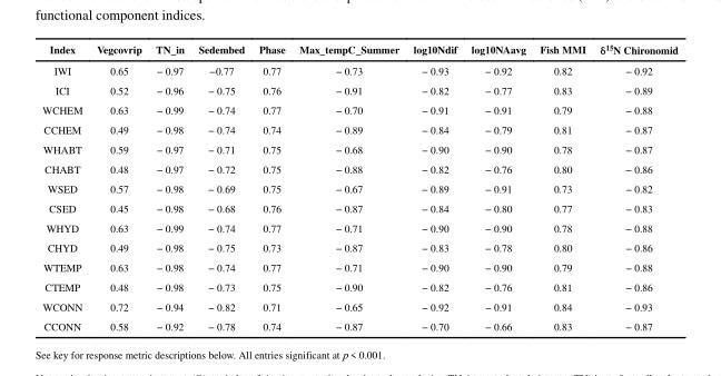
<table><thead><tr><td>Index</td><td>Vegcovrip</td><td>TN_in</td><td>Sedembed</td><td>Phase</td><td>Max_tempC_Summer</td><td>log10Ndif</td><td>log10NAavg</td><td>Fish MMI</td><td>δ<sup>15</sup>N Chironomid</td></tr></thead><tbody><tr><td>IWI</td><td>0.65</td><td>− 0.97</td><td>−0.77</td><td>0.77</td><td>− 0.73</td><td>− 0.93</td><td>− 0.92</td><td>0.82</td><td>− 0.92</td></tr><tr><td>ICI</td><td>0.52</td><td>− 0.96</td><td>− 0.75</td><td>0.76</td><td>− 0.91</td><td>− 0.82</td><td>− 0.77</td><td>0.83</td><td>− 0.89</td></tr><tr><td>WCHEM</td><td>0.63</td><td>− 0.99</td><td>− 0.74</td><td>0.77</td><td>− 0.70</td><td>− 0.91</td><td>− 0.91</td><td>0.79</td><td>− 0.88</td></tr><tr><td>CCHEM</td><td>0.49</td><td>− 0.98</td><td>− 0.74</td><td>0.74</td><td>− 0.89</td><td>− 0.84</td><td>− 0.79</td><td>0.81</td><td>− 0.87</td></tr><tr><td>WHABT</td><td>0.59</td><td>− 0.97</td><td>− 0.71</td><td>0.75</td><td>− 0.68</td><td>− 0.90</td><td>− 0.90</td><td>0.78</td><td>− 0.87</td></tr><tr><td>CHABT</td><td>0.48</td><td>− 0.97</td><td>− 0.72</td><td>0.75</td><td>− 0.88</td><td>− 0.82</td><td>− 0.76</td><td>0.80</td><td>− 0.86</td></tr><tr><td>WSED</td><td>0.57</td><td>− 0.98</td><td>− 0.69</td><td>0.75</td><td>− 0.67</td><td>− 0.89</td><td>− 0.91</td><td>0.73</td><td>− 0.82</td></tr><tr><td>CSED</td><td>0.45</td><td>− 0.98</td><td>− 0.68</td><td>0.76</td><td>− 0.87</td><td>− 0.84</td><td>− 0.80</td><td>0.77</td><td>− 0.83</td></tr><tr><td>WHYD</td><td>0.63</td><td>− 0.99</td><td>− 0.74</td><td>0.77</td><td>− 0.71</td><td>− 0.90</td><td>− 0.90</td><td>0.78</td><td>− 0.88</td></tr><tr><td>CHYD</td><td>0.49</td><td>− 0.98</td><td>− 0.75</td><td>0.73</td><td>− 0.87</td><td>− 0.83</td><td>− 0.78</td><td>0.80</td><td>− 0.86</td></tr><tr><td>WTEMP</td><td>0.63</td><td>− 0.98</td><td>− 0.74</td><td>0.77</td><td>− 0.71</td><td>− 0.90</td><td>− 0.90</td><td>0.79</td><td>− 0.88</td></tr><tr><td>CTEMP</td><td>0.48</td><td>− 0.98</td><td>− 0.73</td><td>0.75</td><td>− 0.90</td><td>− 0.82</td><td>− 0.76</td><td>0.81</td><td>− 0.86</td></tr><tr><td>WCONN</td><td>0.72</td><td>− 0.94</td><td>− 0.82</td><td>0.71</td><td>− 0.65</td><td>− 0.92</td><td>− 0.91</td><td>0.84</td><td>− 0.93</td></tr><tr><td>CCONN</td><td>0.58</td><td>− 0.92</td><td>− 0.78</td><td>0.74</td><td>− 0.87</td><td>− 0.70</td><td>− 0.66</td><td>0.83</td><td>− 0.87</td></tr></tbody></table>